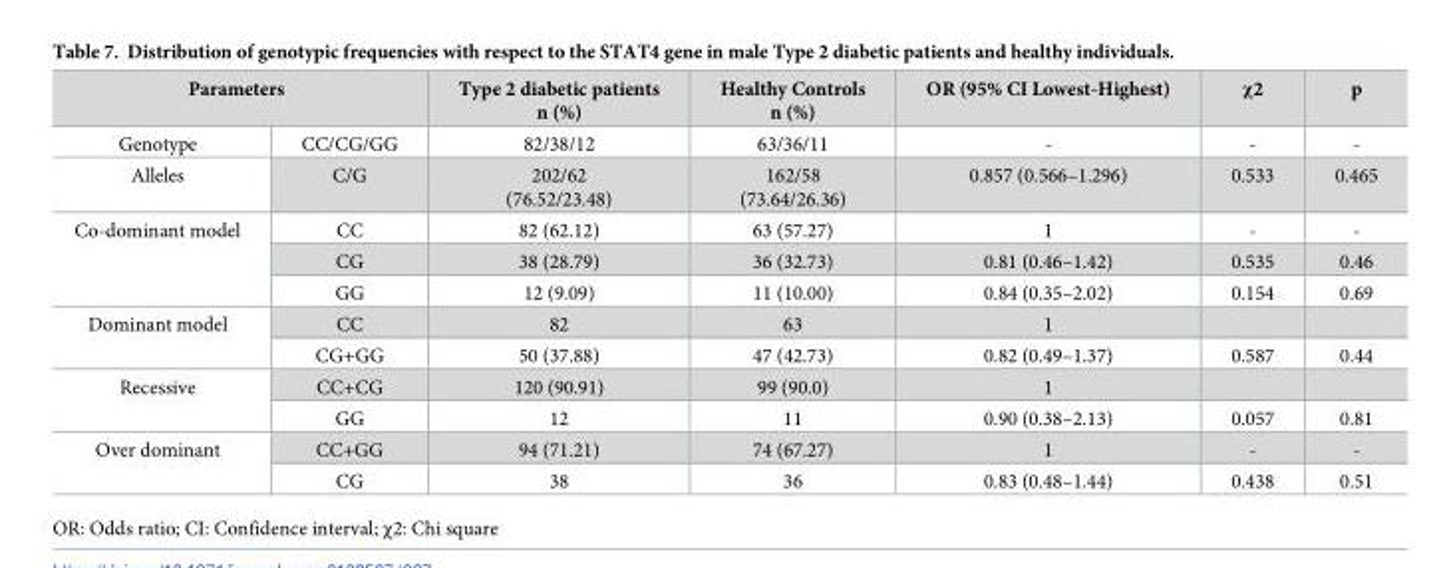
<table><thead><tr><td colspan="2">Parameters</td><td rowspan="2">Type 2 diabetic patients n (%) 82/38/12</td><td rowspan="2">Healthy Controls n (%) 63/36/11</td><td rowspan="2">OR (95% CI Lowest-Highest) -</td><td rowspan="2">χ2 -</td><td rowspan="2">p -</td></tr><tr><td>Genotype</td><td>CC/CG/GG</td></tr></thead><tbody><tr><td>Alleles</td><td>C/G</td><td>202/62 (76.52/23.48)</td><td>162/58 (73.64/26.36)</td><td>0.857 (0.566–1.296)</td><td>0.533</td><td>0.465</td></tr><tr><td rowspan="3">Co-dominant model</td><td>CC</td><td>82 (62.12)</td><td>63 (57.27)</td><td>1</td><td>-</td><td>-</td></tr><tr><td>CG</td><td>38 (28.79)</td><td>36 (32.73)</td><td>0.81 (0.46–1.42)</td><td>0.535</td><td>0.46</td></tr><tr><td>GG</td><td>12 (9.09)</td><td>11 (10.00)</td><td>0.84 (0.35–2.02)</td><td>0.154</td><td>0.69</td></tr><tr><td rowspan="2">Dominant model</td><td>CC</td><td>82</td><td>63</td><td>1</td><td></td><td></td></tr><tr><td>CG+GG</td><td>50 (37.88)</td><td>47 (42.73)</td><td>0.82 (0.49–1.37)</td><td>0.587</td><td>0.44</td></tr><tr><td rowspan="2">Recessive</td><td>CC+CG</td><td>120 (90.91)</td><td>99 (90.0)</td><td>1</td><td></td><td></td></tr><tr><td>GG</td><td>12</td><td>11</td><td>0.90 (0.38–2.13)</td><td>0.057</td><td>0.81</td></tr><tr><td rowspan="2">Over dominant</td><td>CC+GG</td><td>94 (71.21)</td><td>74 (67.27)</td><td>1</td><td>-</td><td>-</td></tr><tr><td>CG</td><td>38</td><td>36</td><td>0.83 (0.48–1.44)</td><td>0.438</td><td>0.51</td></tr></tbody></table>